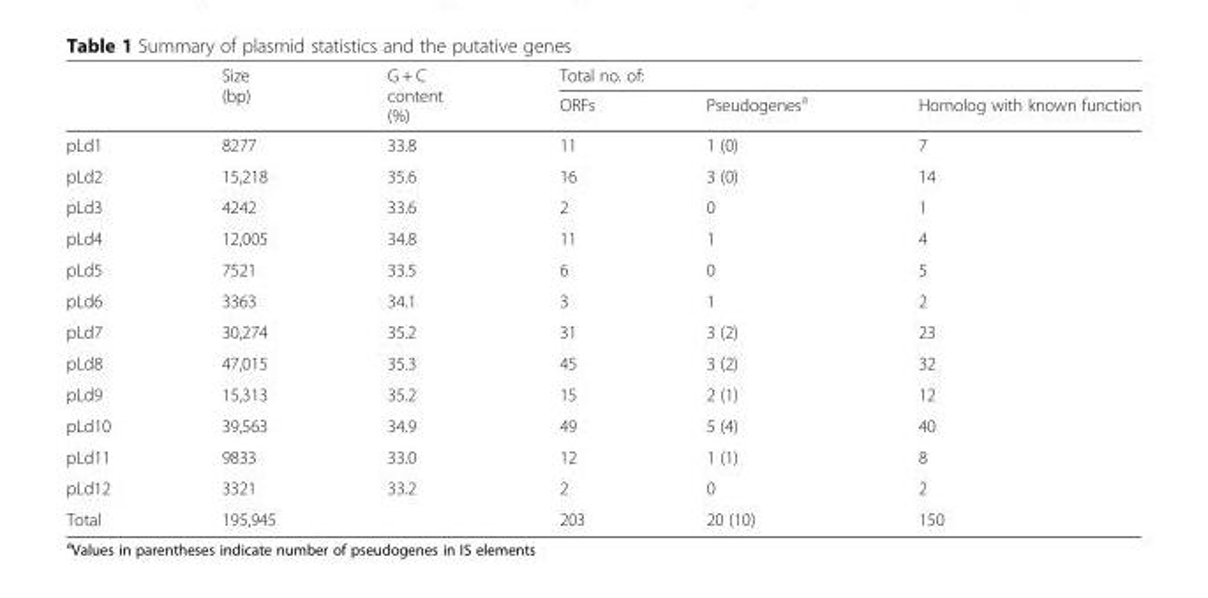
<table><thead><tr><td rowspan="2"></td><td rowspan="2">Size (bp)</td><td rowspan="2">G + C content (%)</td><td colspan="3">Total no. of:</td></tr><tr><td>ORFs</td><td>Pseudogenes<sup>a</sup></td><td>Homolog with known function</td></tr></thead><tbody><tr><td>pLd1</td><td>8277</td><td>33.8</td><td>11</td><td>1 (0)</td><td>7</td></tr><tr><td>pLd2</td><td>15,218</td><td>35.6</td><td>16</td><td>3 (0)</td><td>14</td></tr><tr><td>pLd3</td><td>4242</td><td>33.6</td><td>2</td><td>0</td><td>1</td></tr><tr><td>pLd4</td><td>12,005</td><td>34.8</td><td>11</td><td>1</td><td>4</td></tr><tr><td>pLd5</td><td>7521</td><td>33.5</td><td>6</td><td>0</td><td>5</td></tr><tr><td>pLd6</td><td>3363</td><td>34.1</td><td>3</td><td>1</td><td>2</td></tr><tr><td>pLd7</td><td>30,274</td><td>35.2</td><td>31</td><td>3 (2)</td><td>23</td></tr><tr><td>pLd8</td><td>47,015</td><td>35.3</td><td>45</td><td>3 (2)</td><td>32</td></tr><tr><td>pLd9</td><td>15,313</td><td>35.2</td><td>15</td><td>2 (1)</td><td>12</td></tr><tr><td>pLd10</td><td>39,563</td><td>34.9</td><td>49</td><td>5 (4)</td><td>40</td></tr><tr><td>pLd11</td><td>9833</td><td>33.0</td><td>12</td><td>1 (1)</td><td>8</td></tr><tr><td>pLd12</td><td>3321</td><td>33.2</td><td>2</td><td>0</td><td>2</td></tr><tr><td>Total</td><td>195,945</td><td></td><td>203</td><td>20 (10)</td><td>150</td></tr></tbody></table>